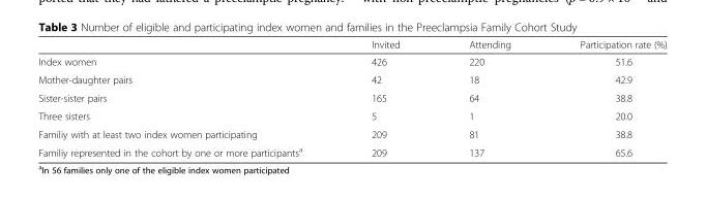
<table><thead><tr><td></td><td>Invited</td><td>Attending</td><td>Participation rate (%)</td></tr></thead><tbody><tr><td>Index women</td><td>426</td><td>220</td><td>51.6</td></tr><tr><td>Mother-daughter pairs</td><td>42</td><td>18</td><td>42.9</td></tr><tr><td>Sister-sister pairs</td><td>165</td><td>64</td><td>38.8</td></tr><tr><td>Three sisters</td><td>5</td><td>1</td><td>20.0</td></tr><tr><td>Familiy with at least two index women participating</td><td>209</td><td>81</td><td>38.8</td></tr><tr><td>Familiy represented in the cohort by one or more participants<sup>a</sup></td><td>209</td><td>137</td><td>65.6</td></tr></tbody></table>